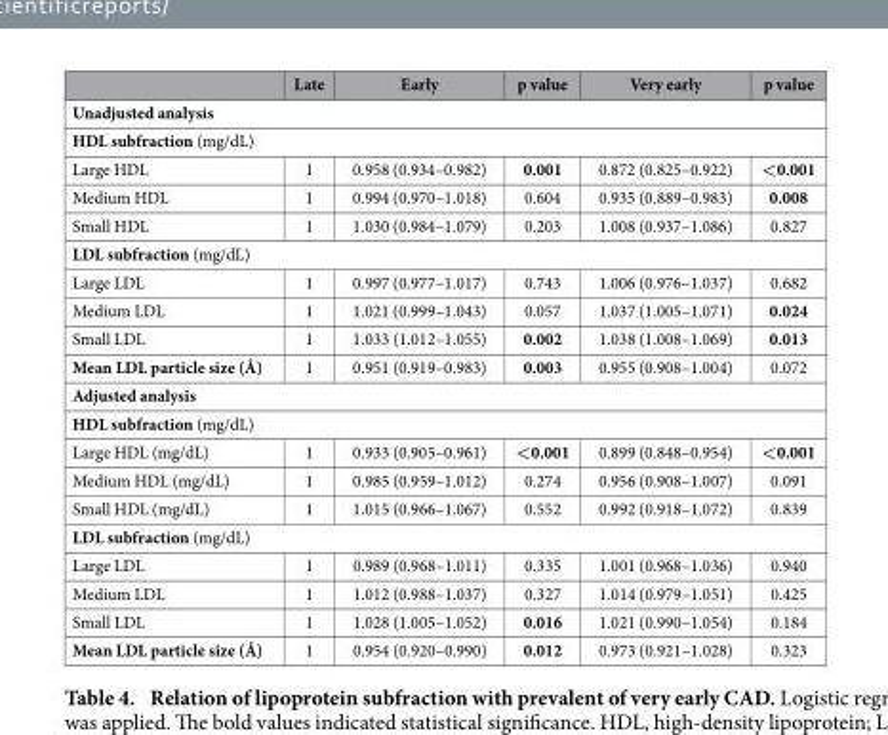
<table><thead><tr><td></td><td>Late</td><td>Early</td><td>p value</td><td>Very early</td><td>p value</td></tr></thead><tbody><tr><td colspan="6">Unadjusted analysis</td></tr><tr><td colspan="6">HDL subfraction (mg/dL)</td></tr><tr><td>Large HDL</td><td>1</td><td>0.958 (0.934–0.982)</td><td>0.001</td><td>0.872 (0.825–0.922)</td><td>&lt;0.001</td></tr><tr><td>Medium HDL</td><td>1</td><td>0.994 (0.970–1.018)</td><td>0.604</td><td>0.935 (0.889–0.983)</td><td>0.008</td></tr><tr><td>Small HDL</td><td>1</td><td>1.030 (0.984–1.079)</td><td>0.203</td><td>1.008 (0.937–1.086)</td><td>0.827</td></tr><tr><td colspan="6">LDL subfraction (mg/dL)</td></tr><tr><td>Large LDL</td><td>1</td><td>0.997 (0.977–1.017)</td><td>0.743</td><td>1.006 (0.976–1.037)</td><td>0.682</td></tr><tr><td>Medium LDL</td><td>1</td><td>1.021 (0.999–1.043)</td><td>0.057</td><td>1.037 (1.005–1.071)</td><td>0.024</td></tr><tr><td>Small LDL</td><td>1</td><td>1.033 (1.012–1.055)</td><td>0.002</td><td>1.038 (1.008–1.069)</td><td>0.013</td></tr><tr><td>Mean LDL particle size (Å)</td><td>1</td><td>0.951 (0.919–0.983)</td><td>0.003</td><td>0.955 (0.908–1.004)</td><td>0.072</td></tr><tr><td colspan="6">Adjusted analysis</td></tr><tr><td colspan="6">HDL subfraction (mg/dL)</td></tr><tr><td>Large HDL (mg/dL)</td><td>1</td><td>0.933 (0.905–0.961)</td><td>&lt;0.001</td><td>0.899 (0.848–0.954)</td><td>&lt;0.001</td></tr><tr><td>Medium HDL (mg/dL)</td><td>1</td><td>0.985 (0.959–1.012)</td><td>0.274</td><td>0.956 (0.908–1.007)</td><td>0.091</td></tr><tr><td>Small HDL (mg/dL)</td><td>1</td><td>1.015 (0.966–1.067)</td><td>0.552</td><td>0.992 (0.918–1.072)</td><td>0.839</td></tr><tr><td colspan="6">LDL subfraction (mg/dL)</td></tr><tr><td>Large LDL</td><td>1</td><td>0.989 (0.968–1.011)</td><td>0.335</td><td>1.001 (0.968–1.036)</td><td>0.940</td></tr><tr><td>Medium LDL</td><td>1</td><td>1.012 (0.988–1.037)</td><td>0.327</td><td>1.014 (0.979–1.051)</td><td>0.425</td></tr><tr><td>Small LDL</td><td>1</td><td>1.028 (1.005–1.052)</td><td>0.016</td><td>1.021 (0.990–1.054)</td><td>0.184</td></tr><tr><td>Mean LDL particle size (Å)</td><td>1</td><td>0.954 (0.920–0.990)</td><td>0.012</td><td>0.973 (0.921–1.028)</td><td>0.323</td></tr></tbody></table>